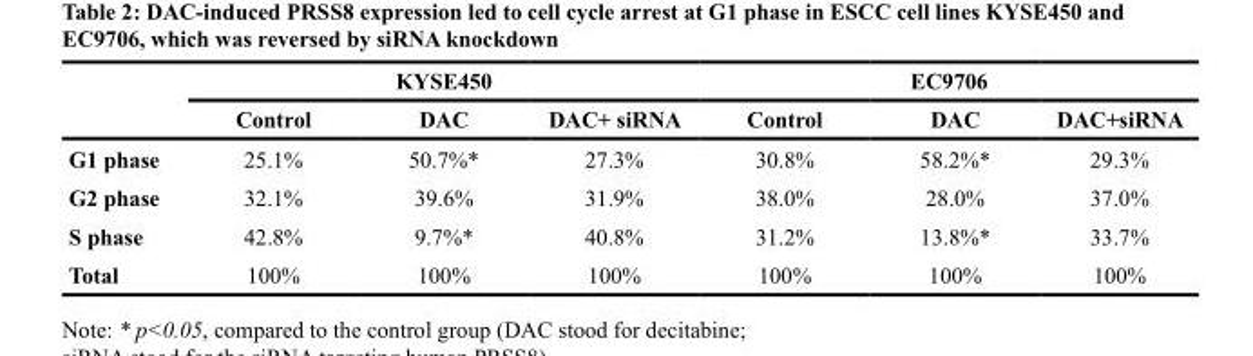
<table><thead><tr><td rowspan="2"></td><td colspan="3">KYSE450</td><td colspan="3">EC9706</td></tr><tr><td>Control</td><td>DAC</td><td>DAC+ siRNA</td><td>Control</td><td>DAC</td><td>DAC+siRNA</td></tr></thead><tbody><tr><td>G1 phase</td><td>25.1%</td><td>50.7%*</td><td>27.3%</td><td>30.8%</td><td>58.2%*</td><td>29.3%</td></tr><tr><td>G2 phase</td><td>32.1%</td><td>39.6%</td><td>31.9%</td><td>38.0%</td><td>28.0%</td><td>37.0%</td></tr><tr><td>S phase</td><td>42.8%</td><td>9.7%*</td><td>40.8%</td><td>31.2%</td><td>13.8%*</td><td>33.7%</td></tr><tr><td>Total</td><td>100%</td><td>100%</td><td>100%</td><td>100%</td><td>100%</td><td>100%</td></tr></tbody></table>